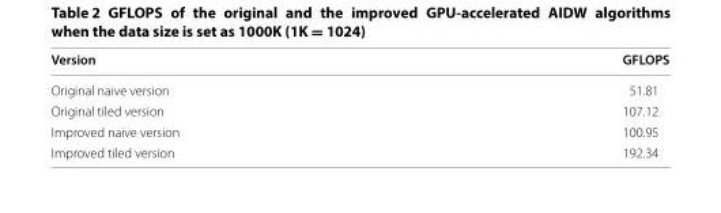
<table><thead><tr><td>Version</td><td>GFLOPS</td></tr></thead><tbody><tr><td>Original naive version</td><td>51.81</td></tr><tr><td>Original tiled version</td><td>107.12</td></tr><tr><td>Improved naive version</td><td>100.95</td></tr><tr><td>Improved tiled version</td><td>192.34</td></tr></tbody></table>